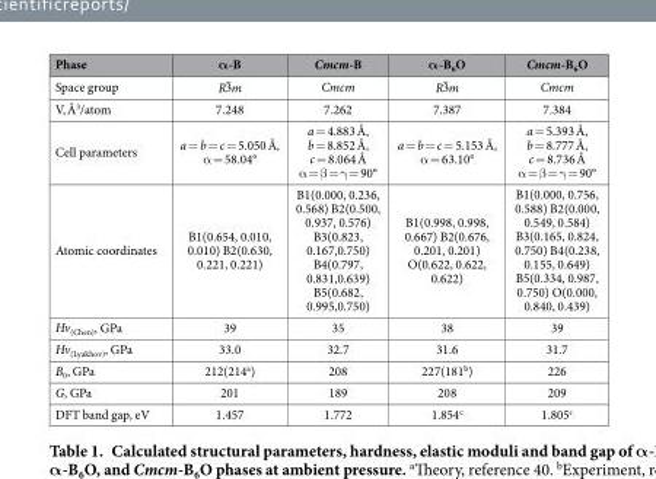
<table><thead><tr><td>Phase</td><td>α-B</td><td>Cmcm-B</td><td>α-B<sub>6</sub>O</td><td>Cmcm-B<sub>6</sub>O</td></tr></thead><tbody><tr><td>Space group</td><td>R3m</td><td>Cmcm</td><td>R3m</td><td>Cmcm</td></tr><tr><td>V, Å<sup>3</sup>/atom</td><td>7.248</td><td>7.262</td><td>7.387</td><td>7.384</td></tr><tr><td>Cell parameters</td><td>a = b = c = 5.050 Å, α = 58.04°</td><td>a = 4.883 Å, b = 8.852 Å, c = 8.064 Å α = β = γ = 90°</td><td>a = b = c = 5.153 Å, α = 63.10°</td><td>a = 5.393 Å, b = 8.777 Å, c = 8.736 Å α = β = γ = 90°</td></tr><tr><td>Atomic coordinates</td><td>B1(0.654, 0.010, 0.010) B2(0.630, 0.221, 0.221)</td><td>B1(0.000, 0.236, 0.568) B2(0.500, 0.937, 0.576) B3(0.823, 0.167,0.750) B4(0.797, 0.831,0.639) B5(0.682, 0.995,0.750)</td><td>B1(0.998, 0.998, 0.667) B2(0.676, 0.201, 0.201) O(0.622, 0.622, 0.622)</td><td>B1(0.000, 0.756, 0.588) B2(0.000, 0.549, 0.584) B3(0.165, 0.824, 0.750) B4(0.238, 0.155, 0.649) B5(0.334, 0.987, 0.750) O(0.000, 0.840, 0.439)</td></tr><tr><td>Hv<sub>(Chen)</sub>, GPa</td><td>39</td><td>35</td><td>38</td><td>39</td></tr><tr><td>Hv<sub>(Lyakhov)</sub>, GPa</td><td>33.0</td><td>32.7</td><td>31.6</td><td>31.7</td></tr><tr><td>B<sub>0</sub>, GPa</td><td>212(214<sup>a</sup>)</td><td>208</td><td>227(181<sup>b</sup>)</td><td>226</td></tr><tr><td>G, GPa</td><td>201</td><td>189</td><td>208</td><td>209</td></tr><tr><td>DFT band gap, eV</td><td>1.457</td><td>1.772</td><td>1.854<sup>c</sup></td><td>1.805<sup>c</sup></td></tr></tbody></table>